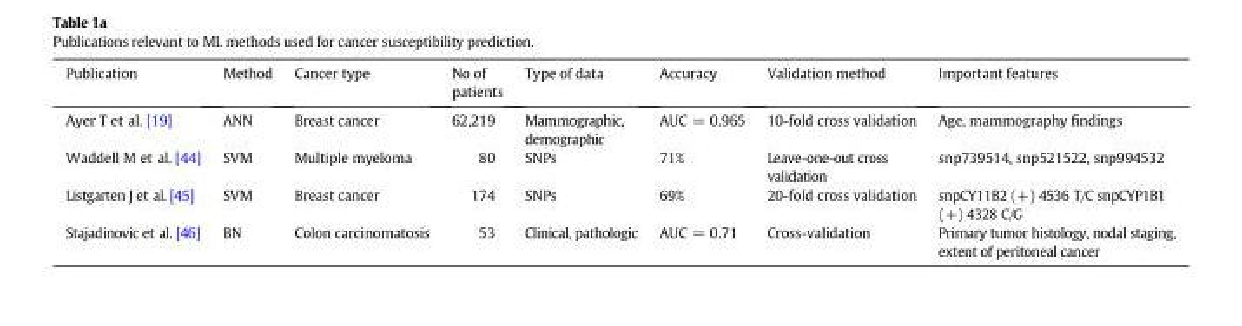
<table><thead><tr><td>Publication</td><td>Method</td><td>Cancer type</td><td>No of patients</td><td>Type of data</td><td>Accuracy</td><td>Validation method</td><td>Important features</td></tr></thead><tbody><tr><td>Ayer T et al. [19]</td><td>ANN</td><td>Breast cancer</td><td>62,219</td><td>Mammographic, demographic</td><td>AUC = 0.965</td><td>10-fold cross validation</td><td>Age, mammography findings</td></tr><tr><td>Waddell M et al. [44]</td><td>SVM</td><td>Multiple myeloma</td><td>80</td><td>SNPs</td><td>71%</td><td>Leave-one-out cross validation</td><td>snp739514, snp521522, snp994532</td></tr><tr><td>Listgarten J et al. [45]</td><td>SVM</td><td>Breast cancer</td><td>174</td><td>SNPs</td><td>69%</td><td>20-fold cross validation</td><td>snpCY11B2 (+) 4536 T/C snpCYP1B1 (+) 4328 C/G</td></tr><tr><td>Stajadinovic et al. [46]</td><td>BN</td><td>Colon carcinomatosis</td><td>53</td><td>Clinical, pathologic</td><td>AUC = 0.71</td><td>Cross-validation</td><td>Primary tumor histology, nodal staging, extent of peritoneal cancer</td></tr></tbody></table>